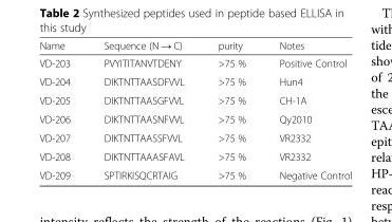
<table><thead><tr><td>Name</td><td>Sequence (N → C)</td><td>purity</td><td>Notes</td></tr></thead><tbody><tr><td>VD-203</td><td>PVYITITANVTDENY</td><td>&gt;75 %</td><td>Positive Control</td></tr><tr><td>VD-204</td><td>DIKTNTTAASDFVVL</td><td>&gt;75 %</td><td>Hun4</td></tr><tr><td>VD-205</td><td>DIKTNTTAASGFVVL</td><td>&gt;75 %</td><td>CH-1A</td></tr><tr><td>VD-206</td><td>DIKTNTTAASNFVVL</td><td>&gt;75 %</td><td>Qy2010</td></tr><tr><td>VD-207</td><td>DIKTNTTAASSFVVL</td><td>&gt;75 %</td><td>VR2332</td></tr><tr><td>VD-208</td><td>DIKTNTTAAASFAVL</td><td>&gt;75 %</td><td>VR2332</td></tr><tr><td>VD-209</td><td>SPTIRKISQCRTAIG</td><td>&gt;75 %</td><td>Negative Control</td></tr></tbody></table>